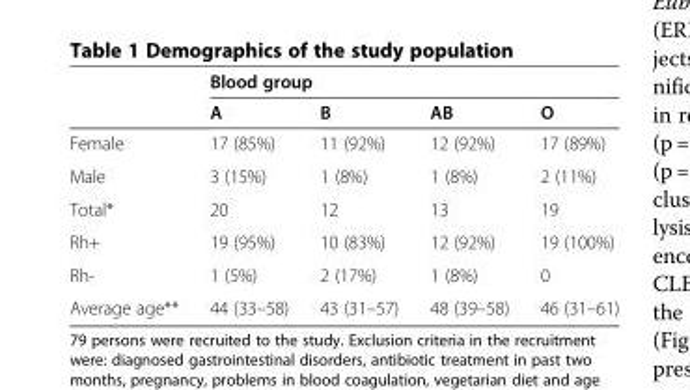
<table><thead><tr><td rowspan="2"></td><td colspan="4">Blood group</td></tr><tr><td>A</td><td>B</td><td>AB</td><td>O</td></tr></thead><tbody><tr><td>Female</td><td>17 (85%)</td><td>11 (92%)</td><td>12 (92%)</td><td>17 (89%)</td></tr><tr><td>Male</td><td>3 (15%)</td><td>1 (8%)</td><td>1 (8%)</td><td>2 (11%)</td></tr><tr><td>Total*</td><td>20</td><td>12</td><td>13</td><td>19</td></tr><tr><td>Rh+</td><td>19 (95%)</td><td>10 (83%)</td><td>12 (92%)</td><td>19 (100%)</td></tr><tr><td>Rh-</td><td>1 (5%)</td><td>2 (17%)</td><td>1 (8%)</td><td>0</td></tr><tr><td>Average age**</td><td>44 (33–58)</td><td>43 (31–57)</td><td>48 (39–58)</td><td>46 (31–61)</td></tr></tbody></table>